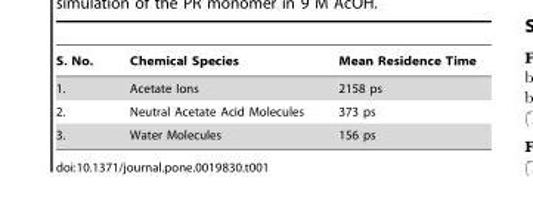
<table><thead><tr><td>S. No.</td><td>Chemical Species</td><td>Mean Residence Time</td></tr></thead><tbody><tr><td>1.</td><td>Acetate Ions</td><td>2158 ps</td></tr><tr><td>2.</td><td>Neutral Acetate Acid Molecules</td><td>373 ps</td></tr><tr><td>3.</td><td>Water Molecules</td><td>156 ps</td></tr></tbody></table>